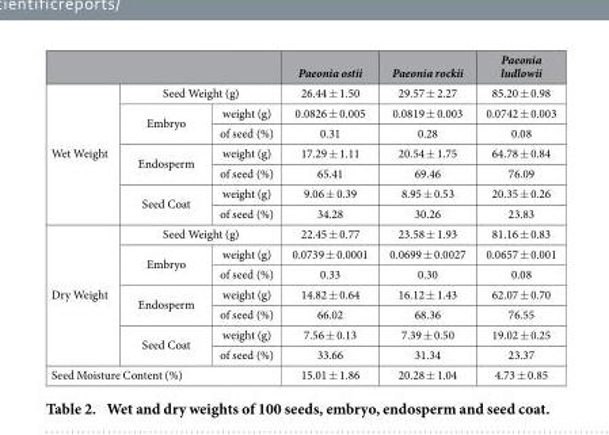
<table><thead><tr><td></td><td></td><td></td><td>Paeonia ostii</td><td>Paeonia rockii</td><td>Paeonia ludlowii</td></tr></thead><tbody><tr><td rowspan="7">Wet Weight</td><td colspan="2">Seed Weight (g)</td><td>26.44 ± 1.50</td><td>29.57 ± 2.27</td><td>85.20 ± 0.98</td></tr><tr><td rowspan="2">Embryo</td><td>weight (g)</td><td>0.0826 ± 0.005</td><td>0.0819 ± 0.003</td><td>0.0742 ± 0.003</td></tr><tr><td>of seed (%)</td><td>0.31</td><td>0.28</td><td>0.08</td></tr><tr><td rowspan="2">Endosperm</td><td>weight (g)</td><td>17.29 ± 1.11</td><td>20.54 ± 1.75</td><td>64.78 ± 0.84</td></tr><tr><td>of seed (%)</td><td>65.41</td><td>69.46</td><td>76.09</td></tr><tr><td rowspan="2">Seed Coat</td><td>weight (g)</td><td>9.06 ± 0.39</td><td>8.95 ± 0.53</td><td>20.35 ± 0.26</td></tr><tr><td>of seed (%)</td><td>34.28</td><td>30.26</td><td>23.83</td></tr><tr><td rowspan="7">Dry Weight</td><td colspan="2">Seed Weight (g)</td><td>22.45 ± 0.77</td><td>23.58 ± 1.93</td><td>81.16 ± 0.83</td></tr><tr><td rowspan="2">Embryo</td><td>weight (g)</td><td>0.0739 ± 0.0001</td><td>0.0699 ± 0.0027</td><td>0.0657 ± 0.001</td></tr><tr><td>of seed (%)</td><td>0.33</td><td>0.30</td><td>0.08</td></tr><tr><td rowspan="2">Endosperm</td><td>weight (g)</td><td>14.82 ± 0.64</td><td>16.12 ± 1.43</td><td>62.07 ± 0.70</td></tr><tr><td>of seed (%)</td><td>66.02</td><td>68.36</td><td>76.55</td></tr><tr><td rowspan="2">Seed Coat</td><td>weight (g)</td><td>7.56 ± 0.13</td><td>7.39 ± 0.50</td><td>19.02 ± 0.25</td></tr><tr><td>of seed (%)</td><td>33.66</td><td>31.34</td><td>23.37</td></tr><tr><td colspan="3">Seed Moisture Content (%)</td><td>15.01 ± 1.86</td><td>20.28 ± 1.04</td><td>4.73 ± 0.85</td></tr></tbody></table>